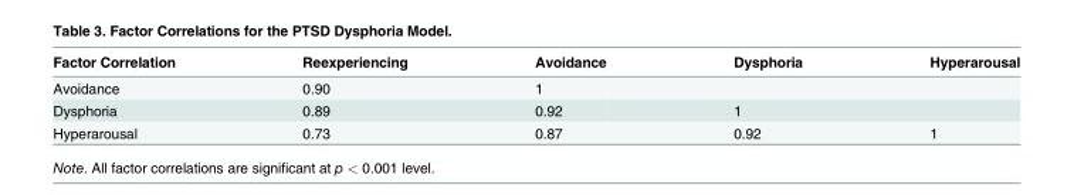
<table><thead><tr><td>Factor Correlation</td><td>Reexperiencing</td><td>Avoidance</td><td>Dysphoria</td><td>Hyperarousal</td></tr></thead><tbody><tr><td>Avoidance</td><td>0.90</td><td>1</td><td></td><td></td></tr><tr><td>Dysphoria</td><td>0.89</td><td>0.92</td><td>1</td><td></td></tr><tr><td>Hyperarousal</td><td>0.73</td><td>0.87</td><td>0.92</td><td>1</td></tr></tbody></table>